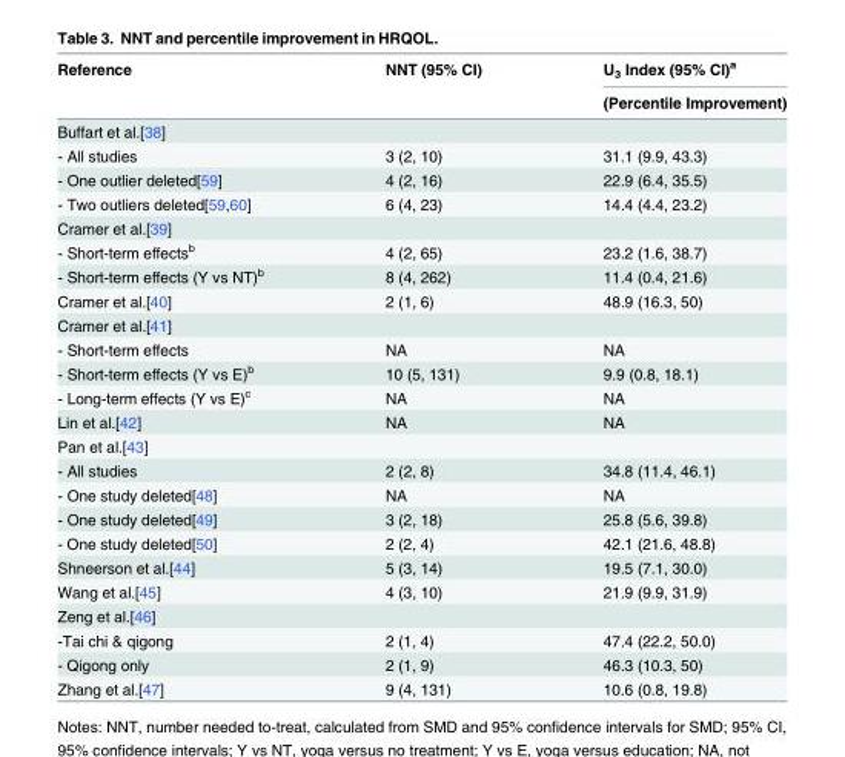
<table><thead><tr><td rowspan="2">Reference</td><td rowspan="2">NNT (95% CI)</td><td rowspan="2">U<sub>3</sub> Index (95% CI)<sup>a</sup> (Percentile Improvement)</td></tr><tr></tr></thead><tbody><tr><td colspan="3">Buffart et al.[38]</td></tr><tr><td>- All studies</td><td>3 (2, 10)</td><td>31.1 (9.9, 43.3)</td></tr><tr><td>- One outlier deleted[59]</td><td>4 (2, 16)</td><td>22.9 (6.4, 35.5)</td></tr><tr><td>- Two outliers deleted[59,60]</td><td>6 (4, 23)</td><td>14.4 (4.4, 23.2)</td></tr><tr><td colspan="3">Cramer et al.[39]</td></tr><tr><td>- Short-term effects<sup>b</sup></td><td>4 (2, 65)</td><td>23.2 (1.6, 38.7)</td></tr><tr><td>- Short-term effects (Y vs NT)<sup>b</sup></td><td>8 (4, 262)</td><td>11.4 (0.4, 21.6)</td></tr><tr><td>Cramer et al.[40]</td><td>2 (1, 6)</td><td>48.9 (16.3, 50)</td></tr><tr><td colspan="3">Cramer et al.[41]</td></tr><tr><td>- Short-term effects</td><td>NA</td><td>NA</td></tr><tr><td>- Short-term effects (Y vs E)<sup>b</sup></td><td>10 (5, 131)</td><td>9.9 (0.8, 18.1)</td></tr><tr><td>- Long-term effects (Y vs E)<sup>c</sup></td><td>NA</td><td>NA</td></tr><tr><td>Lin et al.[42]</td><td>NA</td><td>NA</td></tr><tr><td colspan="3">Pan et al.[43]</td></tr><tr><td>- All studies</td><td>2 (2, 8)</td><td>34.8 (11.4, 46.1)</td></tr><tr><td>- One study deleted[48]</td><td>NA</td><td>NA</td></tr><tr><td>- One study deleted[49]</td><td>3 (2, 18)</td><td>25.8 (5.6, 39.8)</td></tr><tr><td>- One study deleted[50]</td><td>2 (2, 4)</td><td>42.1 (21.6, 48.8)</td></tr><tr><td>Shneerson et al.[44]</td><td>5 (3, 14)</td><td>19.5 (7.1, 30.0)</td></tr><tr><td>Wang et al.[45]</td><td>4 (3, 10)</td><td>21.9 (9.9, 31.9)</td></tr><tr><td colspan="3">Zeng et al.[46]</td></tr><tr><td>-Tai chi &amp; qigong</td><td>2 (1, 4)</td><td>47.4 (22.2, 50.0)</td></tr><tr><td>- Qigong only</td><td>2 (1, 9)</td><td>46.3 (10.3, 50)</td></tr><tr><td>Zhang et al.[47]</td><td>9 (4, 131)</td><td>10.6 (0.8, 19.8)</td></tr></tbody></table>